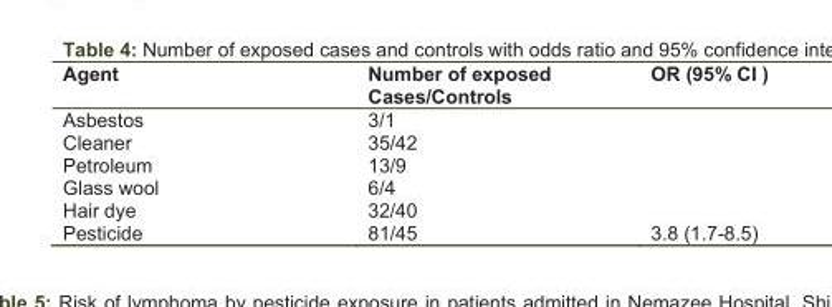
<table><thead><tr><td>Agent</td><td>Number of exposed Cases/Controls</td><td>OR (95% CI )</td></tr></thead><tbody><tr><td>Asbestos</td><td>3/1</td><td></td></tr><tr><td>Cleaner</td><td>35/42</td><td></td></tr><tr><td>Petroleum</td><td>13/9</td><td></td></tr><tr><td>Glass wool</td><td>6/4</td><td></td></tr><tr><td>Hair dye</td><td>32/40</td><td></td></tr><tr><td>Pesticide</td><td>81/45</td><td>3.8 (1.7-8.5)</td></tr></tbody></table>